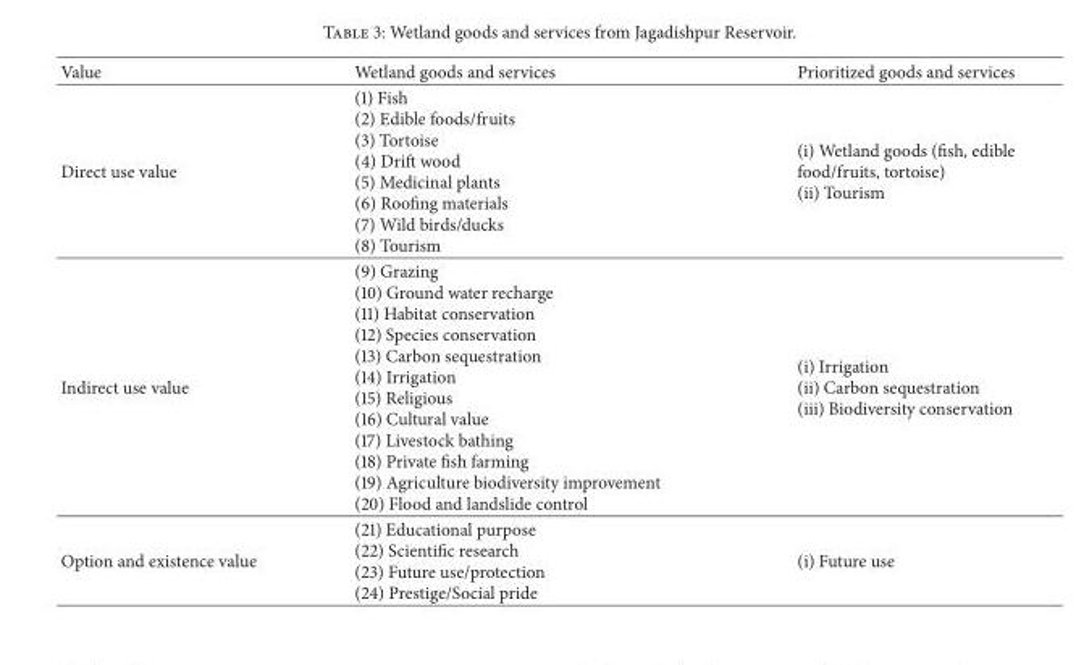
<table><thead><tr><td>Value</td><td>Wetland goods and services</td><td>Prioritized goods and services</td></tr></thead><tbody><tr><td>Direct use value</td><td>(1) Fish (2) Edible foods/fruits (3) Tortoise (4) Drift wood (5) Medicinal plants (6) Roofing materials (7) Wild birds/ducks (8) Tourism</td><td>(i) Wetland goods (fish, edible food/fruits, tortoise) (ii) Tourism</td></tr><tr><td>Indirect use value</td><td>(9) Grazing (10) Ground water recharge (11) Habitat conservation (12) Species conservation (13) Carbon sequestration (14) Irrigation (15) Religious (16) Cultural value (17) Livestock bathing (18) Private fish farming (19) Agriculture biodiversity improvement (20) Flood and landslide control</td><td>(i) Irrigation (ii) Carbon sequestration (iii) Biodiversity conservation</td></tr><tr><td>Option and existence value</td><td>(21) Educational purpose (22) Scientific research (23) Future use/protection (24) Prestige/Social pride</td><td>(i) Future use</td></tr></tbody></table>